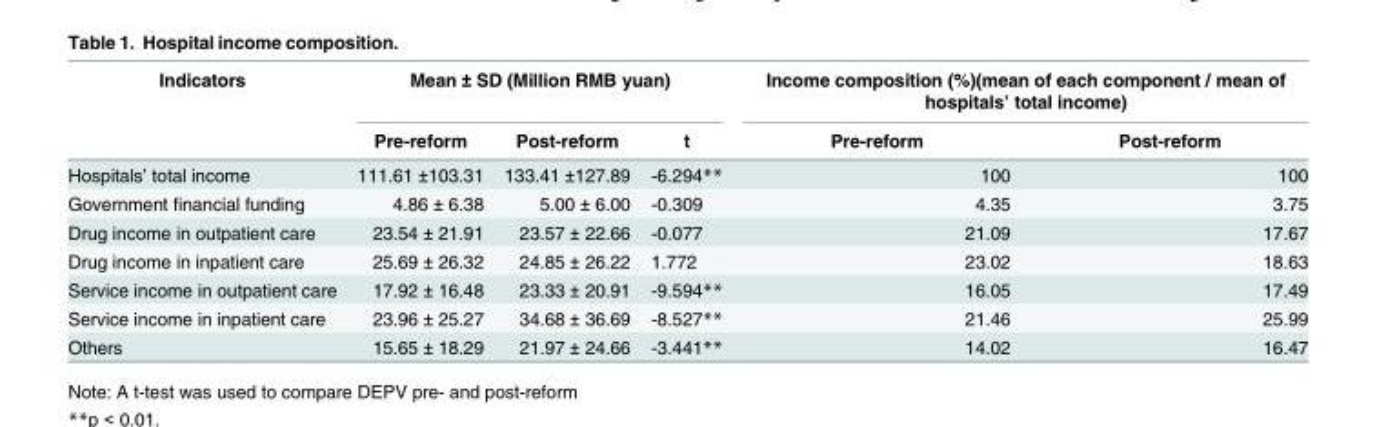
<table><thead><tr><td rowspan="2">Indicators</td><td colspan="3">Mean ± SD (Million RMB yuan)</td><td colspan="2">Income composition (%)(mean of each component / mean of hospitals’ total income)</td></tr><tr><td>Pre-reform</td><td>Post-reform</td><td>t</td><td>Pre-reform</td><td>Post-reform</td></tr></thead><tbody><tr><td>Hospitals’ total income</td><td>111.61 ±103.31</td><td>133.41 ±127.89</td><td>-6.294**</td><td>100</td><td>100</td></tr><tr><td>Government financial funding</td><td>4.86 ± 6.38</td><td>5.00 ± 6.00</td><td>-0.309</td><td>4.35</td><td>3.75</td></tr><tr><td>Drug income in outpatient care</td><td>23.54 ± 21.91</td><td>23.57 ± 22.66</td><td>-0.077</td><td>21.09</td><td>17.67</td></tr><tr><td>Drug income in inpatient care</td><td>25.69 ± 26.32</td><td>24.85 ± 26.22</td><td>1.772</td><td>23.02</td><td>18.63</td></tr><tr><td>Service income in outpatient care</td><td>17.92 ± 16.48</td><td>23.33 ± 20.91</td><td>-9.594**</td><td>16.05</td><td>17.49</td></tr><tr><td>Service income in inpatient care</td><td>23.96 ± 25.27</td><td>34.68 ± 36.69</td><td>-8.527**</td><td>21.46</td><td>25.99</td></tr><tr><td>Others</td><td>15.65 ± 18.29</td><td>21.97 ± 24.66</td><td>-3.441**</td><td>14.02</td><td>16.47</td></tr></tbody></table>